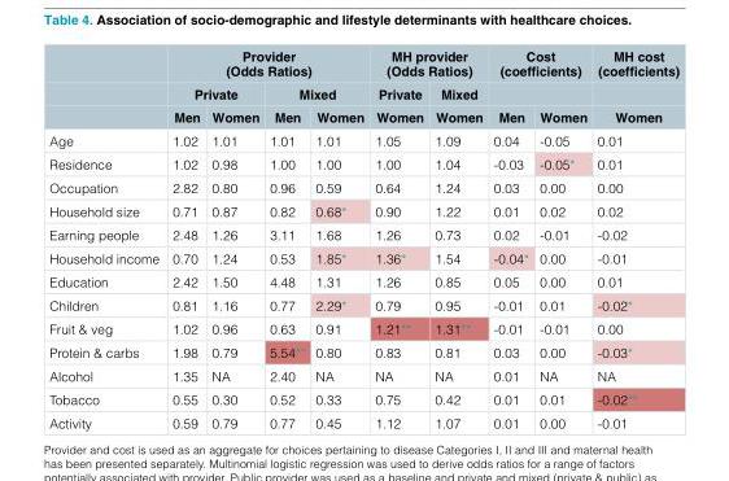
<table><thead><tr><td rowspan="3"></td><td colspan="4">Provider (Odds Ratios)</td><td colspan="2">MH provider (Odds Ratios)</td><td colspan="2">Cost (coefficients)</td><td rowspan="3">MH cost (coefficients) Women</td></tr><tr><td colspan="2">Private</td><td colspan="2">Mixed</td><td rowspan="2">Private Women</td><td rowspan="2">Mixed Women</td><td rowspan="2">Men</td><td rowspan="2">Women</td></tr><tr><td>Men</td><td>Women</td><td>Men</td><td>Women</td></tr></thead><tbody><tr><td>Age</td><td>1.02</td><td>1.01</td><td>1.01</td><td>1.01</td><td>1.05</td><td>1.09</td><td>0.04</td><td>-0.05</td><td>0.01</td></tr><tr><td>Residence</td><td>1.02</td><td>0.98</td><td>1.00</td><td>1.00</td><td>1.00</td><td>1.04</td><td>-0.03</td><td>-0.05*</td><td>0.01</td></tr><tr><td>Occupation</td><td>2.82</td><td>0.80</td><td>0.96</td><td>0.59</td><td>0.64</td><td>1.24</td><td>0.03</td><td>0.00</td><td>0.00</td></tr><tr><td>Household size</td><td>0.71</td><td>0.87</td><td>0.82</td><td>0.68*</td><td>0.90</td><td>1.22</td><td>0.01</td><td>0.02</td><td>0.02</td></tr><tr><td>Earning people</td><td>2.48</td><td>1.26</td><td>3.11</td><td>1.68</td><td>1.26</td><td>0.73</td><td>0.02</td><td>-0.01</td><td>-0.02</td></tr><tr><td>Household income</td><td>0.70</td><td>1.24</td><td>0.53</td><td>1.85*</td><td>1.36*</td><td>1.54</td><td>-0.04*</td><td>0.00</td><td>-0.01</td></tr><tr><td>Education</td><td>2.42</td><td>1.50</td><td>4.48</td><td>1.31</td><td>1.26</td><td>0.85</td><td>0.05</td><td>0.00</td><td>0.01</td></tr><tr><td>Children</td><td>0.81</td><td>1.16</td><td>0.77</td><td>2.29*</td><td>0.79</td><td>0.95</td><td>-0.01</td><td>0.01</td><td>-0.02*</td></tr><tr><td>Fruit &amp; veg</td><td>1.02</td><td>0.96</td><td>0.63</td><td>0.91</td><td>1.21**</td><td>1.31**</td><td>-0.01</td><td>-0.01</td><td>0.00</td></tr><tr><td>Protein &amp; carbs</td><td>1.98</td><td>0.79</td><td>5.54**</td><td>0.80</td><td>0.83</td><td>0.81</td><td>0.03</td><td>0.00</td><td>-0.03*</td></tr><tr><td>Alcohol</td><td>1.35</td><td>NA</td><td>2.40</td><td>NA</td><td>NA</td><td>NA</td><td>0.01</td><td>NA</td><td>NA</td></tr><tr><td>Tobacco</td><td>0.55</td><td>0.30</td><td>0.52</td><td>0.33</td><td>0.75</td><td>0.42</td><td>0.01</td><td>0.01</td><td>-0.02**</td></tr><tr><td>Activity</td><td>0.59</td><td>0.79</td><td>0.77</td><td>0.45</td><td>1.12</td><td>1.07</td><td>0.01</td><td>0.00</td><td>-0.01</td></tr></tbody></table>